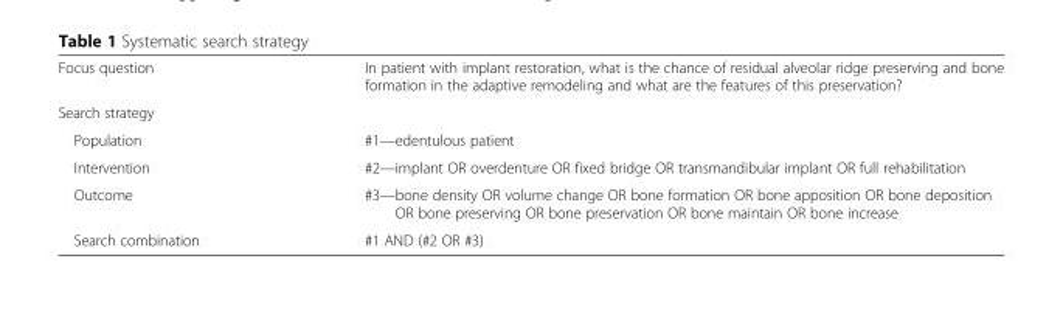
<table><tbody><tr><td>Focus question</td><td>In patient with implant restoration, what is the chance of residual alveolar ridge preserving and bone formation in the adaptive remodeling and what are the features of this preservation?</td></tr><tr><td colspan="2">Search strategy</td></tr><tr><td>Population</td><td>#1—edentulous patient</td></tr><tr><td>Intervention</td><td>#2—implant OR overdenture OR fixed bridge OR transmandibular implant OR full rehabilitation</td></tr><tr><td>Outcome</td><td>#3—bone density OR volume change OR bone formation OR bone apposition OR bone deposition OR bone preserving OR bone preservation OR bone maintain OR bone increase</td></tr><tr><td>Search combination</td><td>#1 AND (#2 OR #3)</td></tr></tbody></table>